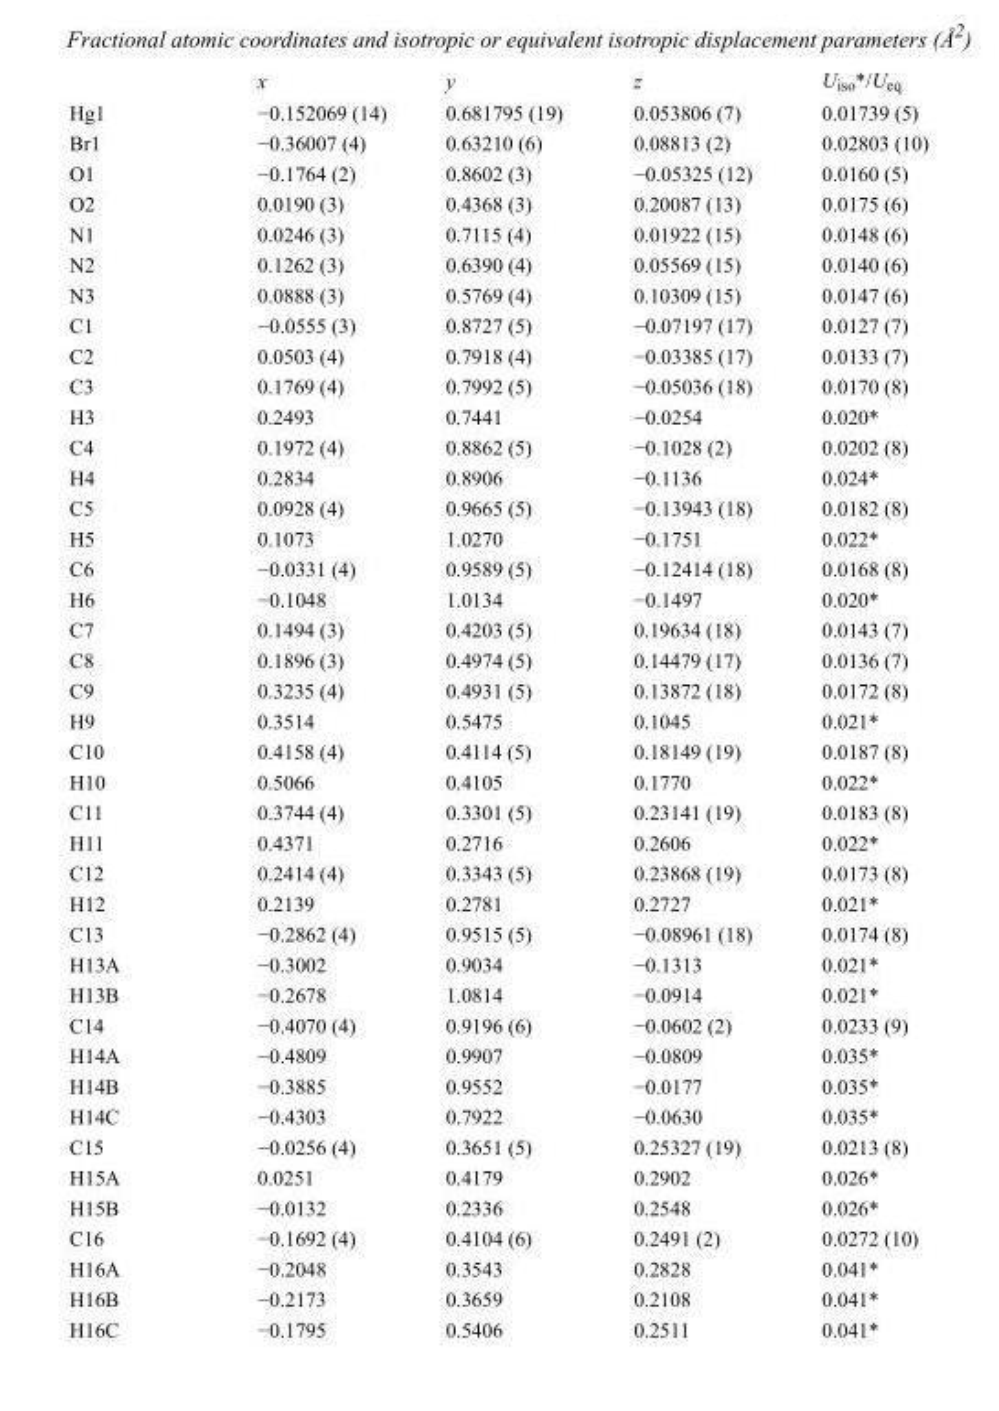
<table><thead><tr><td></td><td>x</td><td>y</td><td>z</td><td>U<sub>iso</sub>*/U<sub>eq</sub></td></tr></thead><tbody><tr><td>Hg1</td><td>−0.152069 (14)</td><td>0.681795 (19)</td><td>0.053806 (7)</td><td>0.01739 (5)</td></tr><tr><td>Br1</td><td>−0.36007 (4)</td><td>0.63210 (6)</td><td>0.08813 (2)</td><td>0.02803 (10)</td></tr><tr><td>O1</td><td>−0.1764 (2)</td><td>0.8602 (3)</td><td>−0.05325 (12)</td><td>0.0160 (5)</td></tr><tr><td>O2</td><td>0.0190 (3)</td><td>0.4368 (3)</td><td>0.20087 (13)</td><td>0.0175 (6)</td></tr><tr><td>N1</td><td>0.0246 (3)</td><td>0.7115 (4)</td><td>0.01922 (15)</td><td>0.0148 (6)</td></tr><tr><td>N2</td><td>0.1262 (3)</td><td>0.6390 (4)</td><td>0.05569 (15)</td><td>0.0140 (6)</td></tr><tr><td>N3</td><td>0.0888 (3)</td><td>0.5769 (4)</td><td>0.10309 (15)</td><td>0.0147 (6)</td></tr><tr><td>C1</td><td>−0.0555 (3)</td><td>0.8727 (5)</td><td>−0.07197 (17)</td><td>0.0127 (7)</td></tr><tr><td>C2</td><td>0.0503 (4)</td><td>0.7918 (4)</td><td>−0.03385 (17)</td><td>0.0133 (7)</td></tr><tr><td>C3</td><td>0.1769 (4)</td><td>0.7992 (5)</td><td>−0.05036 (18)</td><td>0.0170 (8)</td></tr><tr><td>H3</td><td>0.2493</td><td>0.7441</td><td>−0.0254</td><td>0.020*</td></tr><tr><td>C4</td><td>0.1972 (4)</td><td>0.8862 (5)</td><td>−0.1028 (2)</td><td>0.0202 (8)</td></tr><tr><td>H4</td><td>0.2834</td><td>0.8906</td><td>−0.1136</td><td>0.024*</td></tr><tr><td>C5</td><td>0.0928 (4)</td><td>0.9665 (5)</td><td>−0.13943 (18)</td><td>0.0182 (8)</td></tr><tr><td>H5</td><td>0.1073</td><td>1.0270</td><td>−0.1751</td><td>0.022*</td></tr><tr><td>C6</td><td>−0.0331 (4)</td><td>0.9589 (5)</td><td>−0.12414 (18)</td><td>0.0168 (8)</td></tr><tr><td>H6</td><td>−0.1048</td><td>1.0134</td><td>−0.1497</td><td>0.020*</td></tr><tr><td>C7</td><td>0.1494 (3)</td><td>0.4203 (5)</td><td>0.19634 (18)</td><td>0.0143 (7)</td></tr><tr><td>C8</td><td>0.1896 (3)</td><td>0.4974 (5)</td><td>0.14479 (17)</td><td>0.0136 (7)</td></tr><tr><td>C9</td><td>0.3235 (4)</td><td>0.4931 (5)</td><td>0.13872 (18)</td><td>0.0172 (8)</td></tr><tr><td>H9</td><td>0.3514</td><td>0.5475</td><td>0.1045</td><td>0.021*</td></tr><tr><td>C10</td><td>0.4158 (4)</td><td>0.4114 (5)</td><td>0.18149 (19)</td><td>0.0187 (8)</td></tr><tr><td>H10</td><td>0.5066</td><td>0.4105</td><td>0.1770</td><td>0.022*</td></tr><tr><td>C11</td><td>0.3744 (4)</td><td>0.3301 (5)</td><td>0.23141 (19)</td><td>0.0183 (8)</td></tr><tr><td>H11</td><td>0.4371</td><td>0.2716</td><td>0.2606</td><td>0.022*</td></tr><tr><td>C12</td><td>0.2414 (4)</td><td>0.3343 (5)</td><td>0.23868 (19)</td><td>0.0173 (8)</td></tr><tr><td>H12</td><td>0.2139</td><td>0.2781</td><td>0.2727</td><td>0.021*</td></tr><tr><td>C13</td><td>−0.2862 (4)</td><td>0.9515 (5)</td><td>−0.08961 (18)</td><td>0.0174 (8)</td></tr><tr><td>H13A</td><td>−0.3002</td><td>0.9034</td><td>−0.1313</td><td>0.021*</td></tr><tr><td>H13B</td><td>−0.2678</td><td>1.0814</td><td>−0.0914</td><td>0.021*</td></tr><tr><td>C14</td><td>−0.4070 (4)</td><td>0.9196 (6)</td><td>−0.0602 (2)</td><td>0.0233 (9)</td></tr><tr><td>H14A</td><td>−0.4809</td><td>0.9907</td><td>−0.0809</td><td>0.035*</td></tr><tr><td>H14B</td><td>−0.3885</td><td>0.9552</td><td>−0.0177</td><td>0.035*</td></tr><tr><td>H14C</td><td>−0.4303</td><td>0.7922</td><td>−0.0630</td><td>0.035*</td></tr><tr><td>C15</td><td>−0.0256 (4)</td><td>0.3651 (5)</td><td>0.25327 (19)</td><td>0.0213 (8)</td></tr><tr><td>H15A</td><td>0.0251</td><td>0.4179</td><td>0.2902</td><td>0.026*</td></tr><tr><td>H15B</td><td>−0.0132</td><td>0.2336</td><td>0.2548</td><td>0.026*</td></tr><tr><td>C16</td><td>−0.1692 (4)</td><td>0.4104 (6)</td><td>0.2491 (2)</td><td>0.0272 (10)</td></tr><tr><td>H16A</td><td>−0.2048</td><td>0.3543</td><td>0.2828</td><td>0.041*</td></tr><tr><td>H16B</td><td>−0.2173</td><td>0.3659</td><td>0.2108</td><td>0.041*</td></tr><tr><td>H16C</td><td>−0.1795</td><td>0.5406</td><td>0.2511</td><td>0.041*</td></tr></tbody></table>